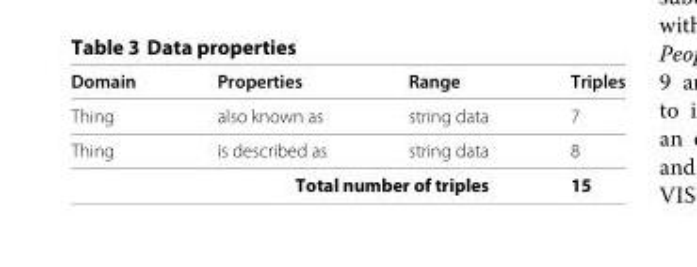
<table><thead><tr><td>Domain</td><td>Properties</td><td>Range</td><td>Triples</td></tr></thead><tbody><tr><td>Thing</td><td>also known as</td><td>string data</td><td>7</td></tr><tr><td>Thing</td><td>is described as</td><td>string data</td><td>8</td></tr><tr><td colspan="3">Total number of triples</td><td>15</td></tr></tbody></table>